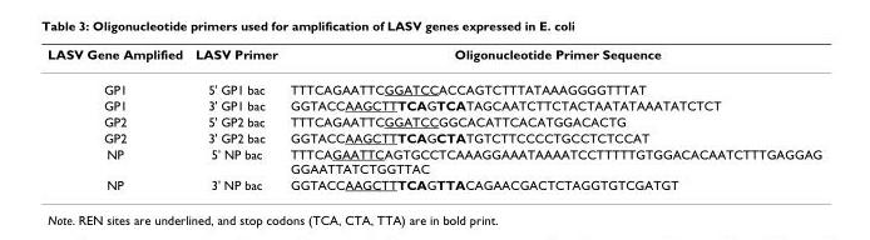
<table><thead><tr><td>LASV Gene Amplified</td><td>LASV Primer</td><td>Oligonucleotide Primer Sequence</td></tr></thead><tbody><tr><td>GP1</td><td>5&#x27; GP1 bac</td><td>TTTCAGAATTCGGATCCACCAGTCTTTATAAAGGGGTTTAT</td></tr><tr><td>GP1</td><td>3&#x27; GP1 bac</td><td>GGTACCAAGCTTTCAGTCATAGCAATCTTCTACTAATATAAATATCTCT</td></tr><tr><td>GP2</td><td>5&#x27; GP2 bac</td><td>TTTCAGAATTCGGATCCGGCACATTCACATGGACACTG</td></tr><tr><td>GP2</td><td>3&#x27; GP2 bac</td><td>GGTACCAAGCTTTCAGCTATGTCTTCCCCTGCCTCTCCAT</td></tr><tr><td>NP</td><td>5&#x27; NP bac</td><td>TTTCAGAATTCAGTGCCTCAAAGGAAATAAAATCCTTTTTGTGGACACAATCTTTGAGGAG GGAATTATCTGGTTAC</td></tr><tr><td>NP</td><td>3&#x27; NP bac</td><td>GGTACCAAGCTTTCAGTTACAGAACGACTCTAGGTGTCGATGT</td></tr></tbody></table>